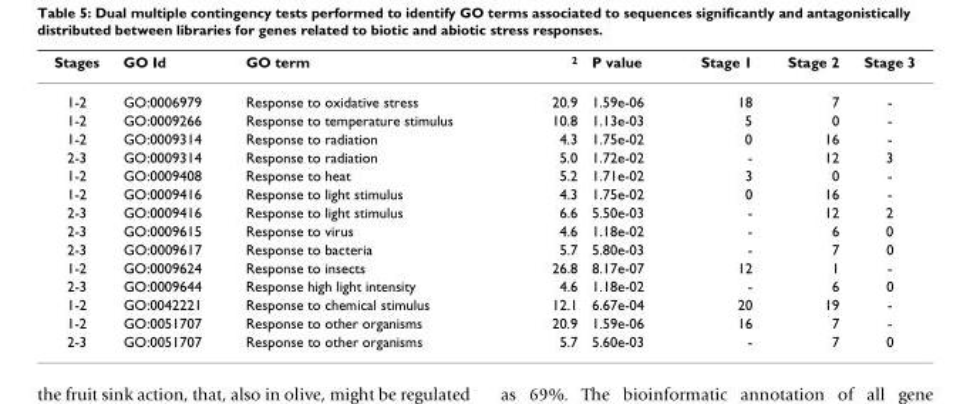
<table><thead><tr><td>Stages</td><td>GO Id</td><td>GO term</td><td>2</td><td>P value</td><td>Stage 1</td><td>Stage 2</td><td>Stage 3</td></tr></thead><tbody><tr><td>1-2</td><td>GO:0006979</td><td>Response to oxidative stress</td><td>20.9</td><td>1.59e-06</td><td>18</td><td>7</td><td>-</td></tr><tr><td>1-2</td><td>GO:0009266</td><td>Response to temperature stimulus</td><td>10.8</td><td>1.13e-03</td><td>5</td><td>0</td><td>-</td></tr><tr><td>1-2</td><td>GO:0009314</td><td>Response to radiation</td><td>4.3</td><td>1.75e-02</td><td>0</td><td>16</td><td>-</td></tr><tr><td>2-3</td><td>GO:0009314</td><td>Response to radiation</td><td>5.0</td><td>1.72e-02</td><td>-</td><td>12</td><td>3</td></tr><tr><td>1-2</td><td>GO:0009408</td><td>Response to heat</td><td>5.2</td><td>1.71e-02</td><td>3</td><td>0</td><td>-</td></tr><tr><td>1-2</td><td>GO:0009416</td><td>Response to light stimulus</td><td>4.3</td><td>1.75e-02</td><td>0</td><td>16</td><td>-</td></tr><tr><td>2-3</td><td>GO:0009416</td><td>Response to light stimulus</td><td>6.6</td><td>5.50e-03</td><td>-</td><td>12</td><td>2</td></tr><tr><td>2-3</td><td>GO:0009615</td><td>Response to virus</td><td>4.6</td><td>1.18e-02</td><td>-</td><td>6</td><td>0</td></tr><tr><td>2-3</td><td>GO:0009617</td><td>Response to bacteria</td><td>5.7</td><td>5.80e-03</td><td>-</td><td>7</td><td>0</td></tr><tr><td>1-2</td><td>GO:0009624</td><td>Response to insects</td><td>26.8</td><td>8.17e-07</td><td>12</td><td>1</td><td>-</td></tr><tr><td>2-3</td><td>GO:0009644</td><td>Response high light intensity</td><td>4.6</td><td>1.18e-02</td><td>-</td><td>6</td><td>0</td></tr><tr><td>1-2</td><td>GO:0042221</td><td>Response to chemical stimulus</td><td>12.1</td><td>6.67e-04</td><td>20</td><td>19</td><td>-</td></tr><tr><td>1-2</td><td>GO:0051707</td><td>Response to other organisms</td><td>20.9</td><td>1.59e-06</td><td>16</td><td>7</td><td>-</td></tr><tr><td>2-3</td><td>GO:0051707</td><td>Response to other organisms</td><td>5.7</td><td>5.60e-03</td><td>-</td><td>7</td><td>0</td></tr></tbody></table>